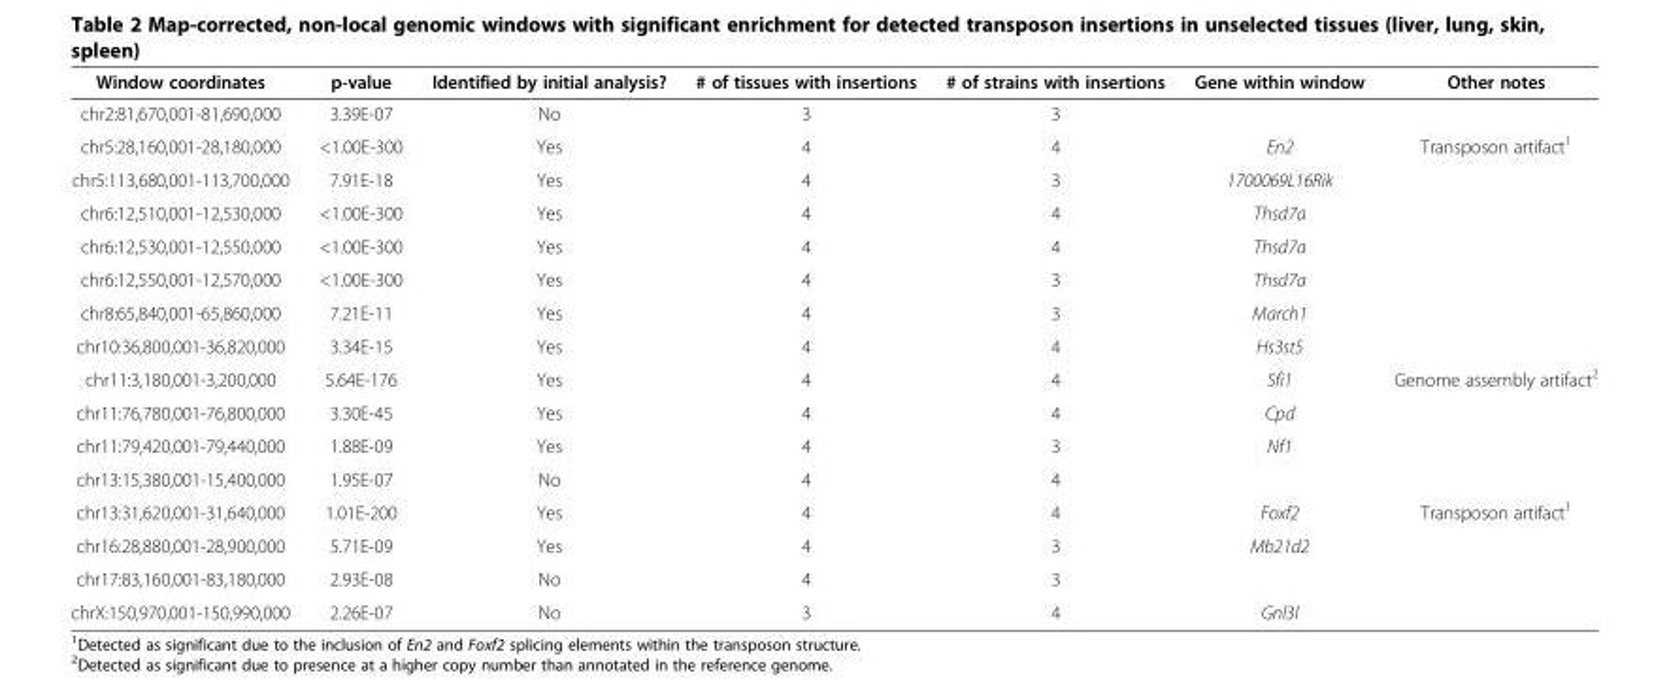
<table><thead><tr><td>Window coordinates</td><td>p-value</td><td>Identified by initial analysis?</td><td># of tissues with insertions</td><td># of strains with insertions</td><td>Gene within window</td><td>Other notes</td></tr></thead><tbody><tr><td>chr2:81,670,001-81,690,000</td><td>3.39E-07</td><td>No</td><td>3</td><td>3</td><td></td><td></td></tr><tr><td>chr5:28,160,001-28,180,000</td><td>&lt;1.00E-300</td><td>Yes</td><td>4</td><td>4</td><td>En2</td><td>Transposon artifact<sup>1</sup></td></tr><tr><td>chr5:113,680,001-113,700,000</td><td>7.91E-18</td><td>Yes</td><td>4</td><td>3</td><td>1700069L16Rik</td><td></td></tr><tr><td>chr6:12,510,001-12,530,000</td><td>&lt;1.00E-300</td><td>Yes</td><td>4</td><td>4</td><td>Thsd7a</td><td></td></tr><tr><td>chr6:12,530,001-12,550,000</td><td>&lt;1.00E-300</td><td>Yes</td><td>4</td><td>4</td><td>Thsd7a</td><td></td></tr><tr><td>chr6:12,550,001-12,570,000</td><td>&lt;1.00E-300</td><td>Yes</td><td>4</td><td>3</td><td>Thsd7a</td><td></td></tr><tr><td>chr8:65,840,001-65,860,000</td><td>7.21E-11</td><td>Yes</td><td>4</td><td>3</td><td>March1</td><td></td></tr><tr><td>chr10:36,800,001-36,820,000</td><td>3.34E-15</td><td>Yes</td><td>4</td><td>4</td><td>Hs3st5</td><td></td></tr><tr><td>chr11:3,180,001-3,200,000</td><td>5.64E-176</td><td>Yes</td><td>4</td><td>4</td><td>Sfi1</td><td>Genome assembly artifact<sup>2</sup></td></tr><tr><td>chr11:76,780,001-76,800,000</td><td>3.30E-45</td><td>Yes</td><td>4</td><td>4</td><td>Cpd</td><td></td></tr><tr><td>chr11:79,420,001-79,440,000</td><td>1.88E-09</td><td>Yes</td><td>4</td><td>3</td><td>Nf1</td><td></td></tr><tr><td>chr13:15,380,001-15,400,000</td><td>1.95E-07</td><td>No</td><td>4</td><td>4</td><td></td><td></td></tr><tr><td>chr13:31,620,001-31,640,000</td><td>1.01E-200</td><td>Yes</td><td>4</td><td>4</td><td>Foxf2</td><td>Transposon artifact<sup>1</sup></td></tr><tr><td>chr16:28,880,001-28,900,000</td><td>5.71E-09</td><td>Yes</td><td>4</td><td>3</td><td>Mb21d2</td><td></td></tr><tr><td>chr17:83,160,001-83,180,000</td><td>2.93E-08</td><td>No</td><td>4</td><td>3</td><td></td><td></td></tr><tr><td>chrX:150,970,001-150,990,000</td><td>2.26E-07</td><td>No</td><td>3</td><td>4</td><td>Gnl3l</td><td></td></tr></tbody></table>